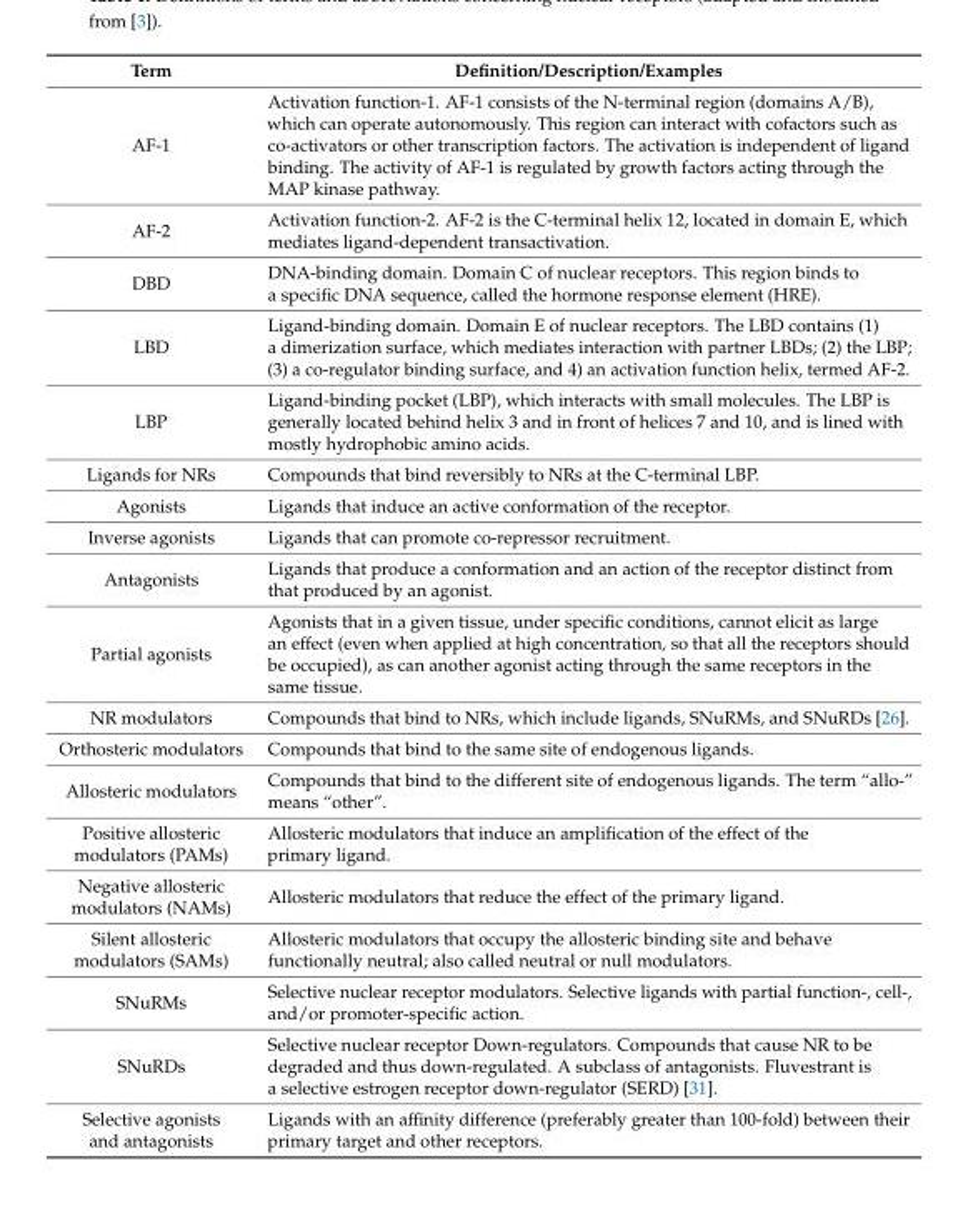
<table><thead><tr><td>Term</td><td>Definition/Description/Examples</td></tr></thead><tbody><tr><td>AF-1</td><td>Activation function-1. AF-1 consists of the N-terminal region (domains A/B), which can operate autonomously. This region can interact with cofactors such as co-activators or other transcription factors. The activation is independent of ligand binding. The activity of AF-1 is regulated by growth factors acting through the MAP kinase pathway.</td></tr><tr><td>AF-2</td><td>Activation function-2. AF-2 is the C-terminal helix 12, located in domain E, which mediates ligand-dependent transactivation.</td></tr><tr><td>DBD</td><td>DNA-binding domain. Domain C of nuclear receptors. This region binds to a specific DNA sequence, called the hormone response element (HRE).</td></tr><tr><td>LBD</td><td>Ligand-binding domain. Domain E of nuclear receptors. The LBD contains (1) a dimerization surface, which mediates interaction with partner LBDs; (2) the LBP; (3) a co-regulator binding surface, and 4) an activation function helix, termed AF-2.</td></tr><tr><td>LBP</td><td>Ligand-binding pocket (LBP), which interacts with small molecules. The LBP is generally located behind helix 3 and in front of helices 7 and 10, and is lined with mostly hydrophobic amino acids.</td></tr><tr><td>Ligands for NRs</td><td>Compounds that bind reversibly to NRs at the C-terminal LBP.</td></tr><tr><td>Agonists</td><td>Ligands that induce an active conformation of the receptor.</td></tr><tr><td>Inverse agonists</td><td>Ligands that can promote co-repressor recruitment.</td></tr><tr><td>Antagonists</td><td>Ligands that produce a conformation and an action of the receptor distinct from that produced by an agonist.</td></tr><tr><td>Partial agonists</td><td>Agonists that in a given tissue, under specific conditions, cannot elicit as large an effect (even when applied at high concentration, so that all the receptors should be occupied), as can another agonist acting through the same receptors in the same tissue.</td></tr><tr><td>NR modulators</td><td>Compounds that bind to NRs, which include ligands, SNuRMs, and SNuRDs [26].</td></tr><tr><td>Orthosteric modulators</td><td>Compounds that bind to the same site of endogenous ligands.</td></tr><tr><td>Allosteric modulators</td><td>Compounds that bind to the different site of endogenous ligands. The term “allo-” means “other”.</td></tr><tr><td>Positive allosteric modulators (PAMs)</td><td>Allosteric modulators that induce an amplification of the effect of the primary ligand.</td></tr><tr><td>Negative allosteric modulators (NAMs)</td><td>Allosteric modulators that reduce the effect of the primary ligand.</td></tr><tr><td>Silent allosteric modulators (SAMs)</td><td>Allosteric modulators that occupy the allosteric binding site and behave functionally neutral; also called neutral or null modulators.</td></tr><tr><td>SNuRMs</td><td>Selective nuclear receptor modulators. Selective ligands with partial function-, cell-, and/or promoter-specific action.</td></tr><tr><td>SNuRDs</td><td>Selective nuclear receptor Down-regulators. Compounds that cause NR to be degraded and thus down-regulated. A subclass of antagonists. Fluvestrant is a selective estrogen receptor down-regulator (SERD) [31].</td></tr><tr><td>Selective agonists and antagonists</td><td>Ligands with an affinity difference (preferably greater than 100-fold) between their primary target and other receptors.</td></tr></tbody></table>